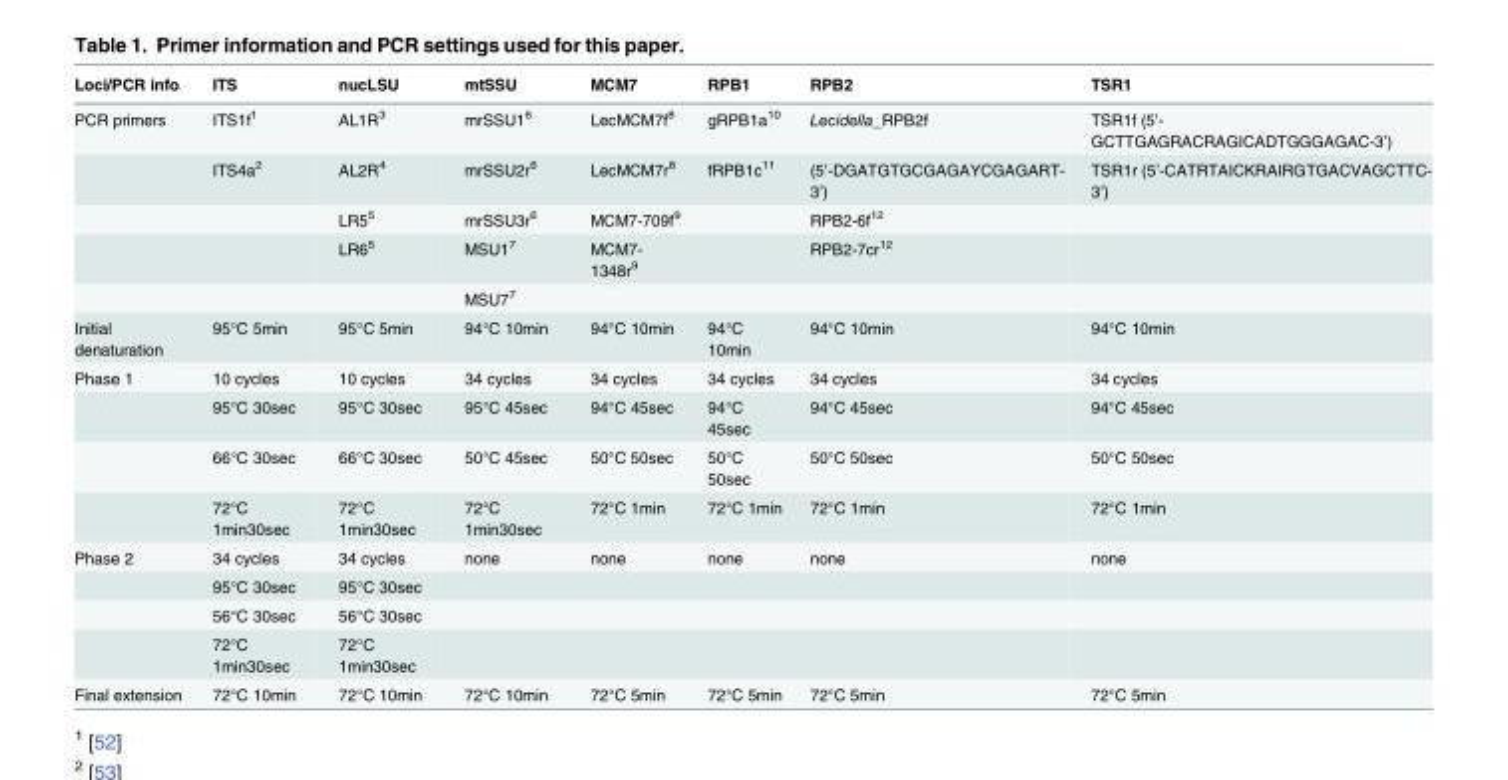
<table><thead><tr><td>Loci/PCR info</td><td>ITS</td><td>nucLSU</td><td>mtSSU</td><td>MCM7</td><td>RPB1</td><td>RPB2</td><td>TSR1</td></tr></thead><tbody><tr><td rowspan="5">PCR primers</td><td>ITS1f<sup>1</sup></td><td>AL1R<sup>3</sup></td><td>mrSSU1<sup>6</sup></td><td>LecMCM7f<sup>8</sup></td><td>gRPB1a<sup>10</sup></td><td>Lecidella_RPB2f</td><td>TSR1f (5’- GCTTGAGRACRAGICADTGGGAGAC-3’)</td></tr><tr><td>ITS4a<sup>2</sup></td><td>AL2R<sup>4</sup></td><td>mrSSU2r<sup>6</sup></td><td>LecMCM7r<sup>8</sup></td><td>fRPB1c<sup>11</sup></td><td>(5’-DGATGTGCGAGAYCGAGART- 3’)</td><td>TSR1r (5’-CATRTAICKRAIRGTGACVAGCTTC- 3’)</td></tr><tr><td></td><td>LR5<sup>5</sup></td><td>mrSSU3r<sup>6</sup></td><td>MCM7-709f<sup>9</sup></td><td></td><td>RPB2-6f<sup>12</sup></td><td></td></tr><tr><td></td><td>LR6<sup>5</sup></td><td>MSU1<sup>7</sup></td><td>MCM7- 1348r<sup>9</sup></td><td></td><td>RPB2-7cr<sup>12</sup></td><td></td></tr><tr><td></td><td></td><td>MSU7<sup>7</sup></td><td></td><td></td><td></td><td></td></tr><tr><td>Initial denaturation</td><td>95°C 5min</td><td>95°C 5min</td><td>94°C 10min</td><td>94°C 10min</td><td>94°C 10min</td><td>94°C 10min</td><td>94°C 10min</td></tr><tr><td rowspan="4">Phase 1</td><td>10 cycles</td><td>10 cycles</td><td>34 cycles</td><td>34 cycles</td><td>34 cycles</td><td>34 cycles</td><td>34 cycles</td></tr><tr><td>95°C 30sec</td><td>95°C 30sec</td><td>95°C 45sec</td><td>94°C 45sec</td><td>94°C 45sec</td><td>94°C 45sec</td><td>94°C 45sec</td></tr><tr><td>66°C 30sec</td><td>66°C 30sec</td><td>50°C 45sec</td><td>50°C 50sec</td><td>50°C 50sec</td><td>50°C 50sec</td><td>50°C 50sec</td></tr><tr><td>72°C 1min30sec</td><td>72°C 1min30sec</td><td>72°C 1min30sec</td><td>72°C 1min</td><td>72°C 1min</td><td>72°C 1min</td><td>72°C 1min</td></tr><tr><td rowspan="4">Phase 2</td><td>34 cycles</td><td>34 cycles</td><td>none</td><td>none</td><td>none</td><td>none</td><td>none</td></tr><tr><td>95°C 30sec</td><td>95°C 30sec</td><td></td><td></td><td></td><td></td><td></td></tr><tr><td>56°C 30sec</td><td>56°C 30sec</td><td></td><td></td><td></td><td></td><td></td></tr><tr><td>72°C 1min30sec</td><td>72°C 1min30sec</td><td></td><td></td><td></td><td></td><td></td></tr><tr><td>Final extension</td><td>72°C 10min</td><td>72°C 10min</td><td>72°C 10min</td><td>72°C 5min</td><td>72°C 5min</td><td>72°C 5min</td><td>72°C 5min</td></tr></tbody></table>